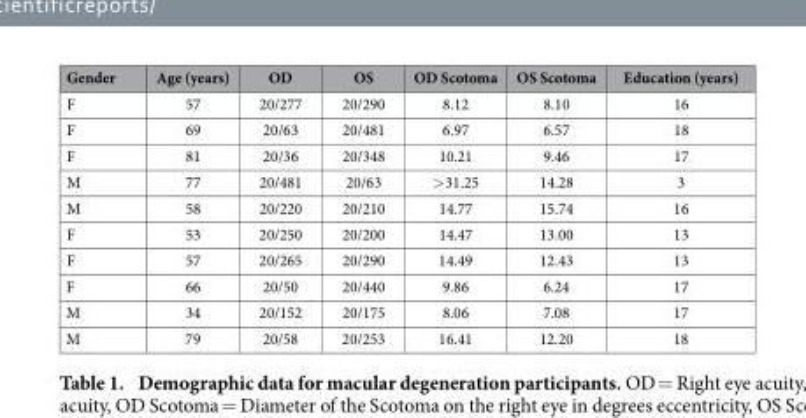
<table><thead><tr><td>Gender</td><td>Age (years)</td><td>OD</td><td>OS</td><td>OD Scotoma</td><td>OS Scotoma</td><td>Education (years)</td></tr></thead><tbody><tr><td>F</td><td>57</td><td>20/277</td><td>20/290</td><td>8.12</td><td>8.10</td><td>16</td></tr><tr><td>F</td><td>69</td><td>20/63</td><td>20/481</td><td>6.97</td><td>6.57</td><td>18</td></tr><tr><td>F</td><td>81</td><td>20/36</td><td>20/348</td><td>10.21</td><td>9.46</td><td>17</td></tr><tr><td>M</td><td>77</td><td>20/481</td><td>20/63</td><td>&gt; 31.25</td><td>14.28</td><td>3</td></tr><tr><td>M</td><td>58</td><td>20/220</td><td>20/210</td><td>14.77</td><td>15.74</td><td>16</td></tr><tr><td>F</td><td>53</td><td>20/250</td><td>20/200</td><td>14.47</td><td>13.00</td><td>13</td></tr><tr><td>F</td><td>57</td><td>20/265</td><td>20/290</td><td>14.49</td><td>12.43</td><td>13</td></tr><tr><td>F</td><td>66</td><td>20/50</td><td>20/440</td><td>9.86</td><td>6.24</td><td>17</td></tr><tr><td>M</td><td>34</td><td>20/152</td><td>20/175</td><td>8.06</td><td>7.08</td><td>17</td></tr><tr><td>M</td><td>79</td><td>20/58</td><td>20/253</td><td>16.41</td><td>12.20</td><td>18</td></tr></tbody></table>